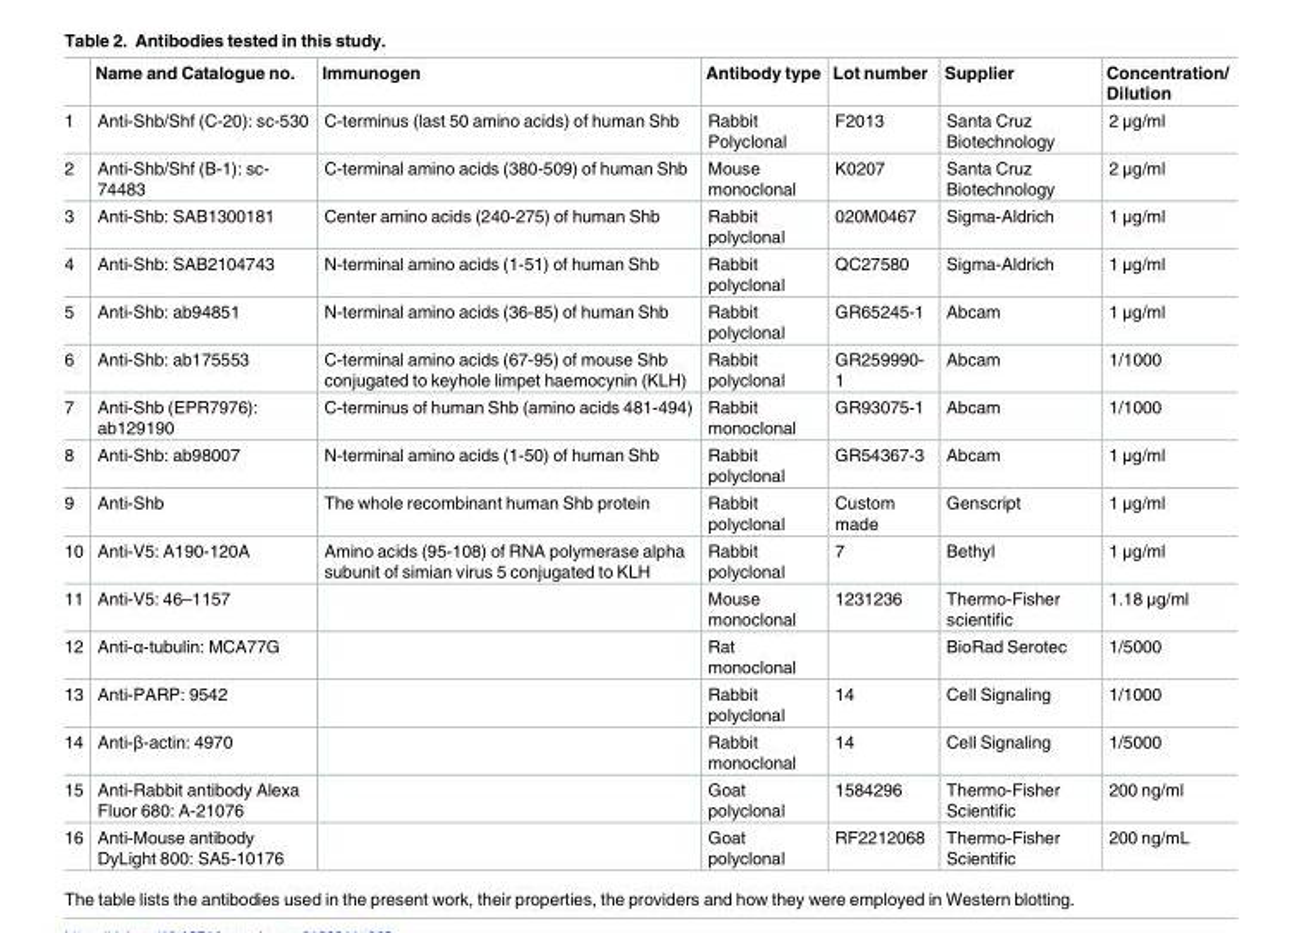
<table><thead><tr><td></td><td>Name and Catalogue no.</td><td>Immunogen</td><td>Antibody type</td><td>Lot number</td><td>Supplier</td><td>Concentration/ Dilution</td></tr></thead><tbody><tr><td>1</td><td>Anti-Shb/Shf (C-20): sc-530</td><td>C-terminus (last 50 amino acids) of human Shb</td><td>Rabbit Polyclonal</td><td>F2013</td><td>Santa Cruz Biotechnology</td><td>2 μg/ml</td></tr><tr><td>2</td><td>Anti-Shb/Shf (B-1): sc- 74483</td><td>C-terminal amino acids (380-509) of human Shb</td><td>Mouse monoclonal</td><td>K0207</td><td>Santa Cruz Biotechnology</td><td>2 μg/ml</td></tr><tr><td>3</td><td>Anti-Shb: SAB1300181</td><td>Center amino acids (240-275) of human Shb</td><td>Rabbit polyclonal</td><td>020M0467</td><td>Sigma-Aldrich</td><td>1 μg/ml</td></tr><tr><td>4</td><td>Anti-Shb: SAB2104743</td><td>N-terminal amino acids (1-51) of human Shb</td><td>Rabbit polyclonal</td><td>QC27580</td><td>Sigma-Aldrich</td><td>1 μg/ml</td></tr><tr><td>5</td><td>Anti-Shb: ab94851</td><td>N-terminal amino acids (36-85) of human Shb</td><td>Rabbit polyclonal</td><td>GR65245-1</td><td>Abcam</td><td>1 μg/ml</td></tr><tr><td>6</td><td>Anti-Shb: ab175553</td><td>C-terminal amino acids (67-95) of mouse Shb conjugated to keyhole limpet haemocynin (KLH)</td><td>Rabbit polyclonal</td><td>GR259990- 1</td><td>Abcam</td><td>1/1000</td></tr><tr><td>7</td><td>Anti-Shb (EPR7976): ab129190</td><td>C-terminus of human Shb (amino acids 481-494)</td><td>Rabbit monoclonal</td><td>GR93075-1</td><td>Abcam</td><td>1/1000</td></tr><tr><td>8</td><td>Anti-Shb: ab98007</td><td>N-terminal amino acids (1-50) of human Shb</td><td>Rabbit polyclonal</td><td>GR54367-3</td><td>Abcam</td><td>1 μg/ml</td></tr><tr><td>9</td><td>Anti-Shb</td><td>The whole recombinant human Shb protein</td><td>Rabbit polyclonal</td><td>Custom made</td><td>Genscript</td><td>1 μg/ml</td></tr><tr><td>10</td><td>Anti-V5: A190-120A</td><td>Amino acids (95-108) of RNA polymerase alpha subunit of simian virus 5 conjugated to KLH</td><td>Rabbit polyclonal</td><td>7</td><td>Bethyl</td><td>1 μg/ml</td></tr><tr><td>11</td><td>Anti-V5: 46–1157</td><td></td><td>Mouse monoclonal</td><td>1231236</td><td>Thermo-Fisher scientific</td><td>1.18 μg/ml</td></tr><tr><td>12</td><td>Anti-α-tubulin: MCA77G</td><td></td><td>Rat monoclonal</td><td></td><td>BioRad Serotec</td><td>1/5000</td></tr><tr><td>13</td><td>Anti-PARP: 9542</td><td></td><td>Rabbit polyclonal</td><td>14</td><td>Cell Signaling</td><td>1/1000</td></tr><tr><td>14</td><td>Anti-β-actin: 4970</td><td></td><td>Rabbit monoclonal</td><td>14</td><td>Cell Signaling</td><td>1/5000</td></tr><tr><td>15</td><td>Anti-Rabbit antibody Alexa Fluor 680: A-21076</td><td></td><td>Goat polyclonal</td><td>1584296</td><td>Thermo-Fisher Scientific</td><td>200 ng/ml</td></tr><tr><td>16</td><td>Anti-Mouse antibody DyLight 800: SA5-10176</td><td></td><td>Goat polyclonal</td><td>RF2212068</td><td>Thermo-Fisher Scientific</td><td>200 ng/mL</td></tr></tbody></table>